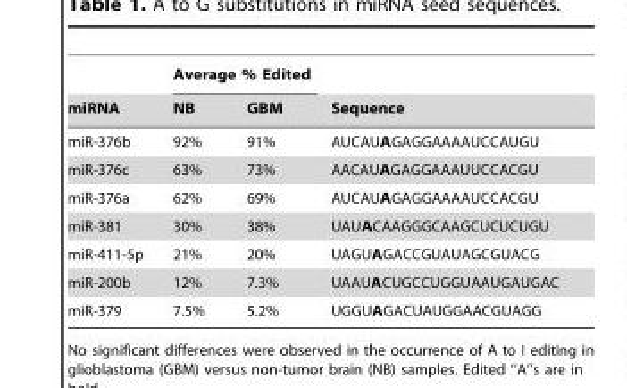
<table><thead><tr><td rowspan="2">miRNA</td><td colspan="2">Average % Edited</td><td rowspan="2">Sequence</td></tr><tr><td>NB</td><td>GBM</td></tr></thead><tbody><tr><td>miR-376b</td><td>92%</td><td>91%</td><td>AUCAUAGAGGAAAAUCCAUGU</td></tr><tr><td>miR-376c</td><td>63%</td><td>73%</td><td>AACAUAGAGGAAAUUCCACGU</td></tr><tr><td>miR-376a</td><td>62%</td><td>69%</td><td>AUCAUAGAGGAAAAUCCACGU</td></tr><tr><td>miR-381</td><td>30%</td><td>38%</td><td>UAUACAAGGGCAAGCUCUCUGU</td></tr><tr><td>miR-411-5p</td><td>21%</td><td>20%</td><td>UAGUAGACCGUAUAGCGUACG</td></tr><tr><td>miR-200b</td><td>12%</td><td>7.3%</td><td>UAAUACUGCCUGGUAAUGAUGAC</td></tr><tr><td>miR-379</td><td>7.5%</td><td>5.2%</td><td>UGGUAGACUAUGGAACGUAGG</td></tr></tbody></table>